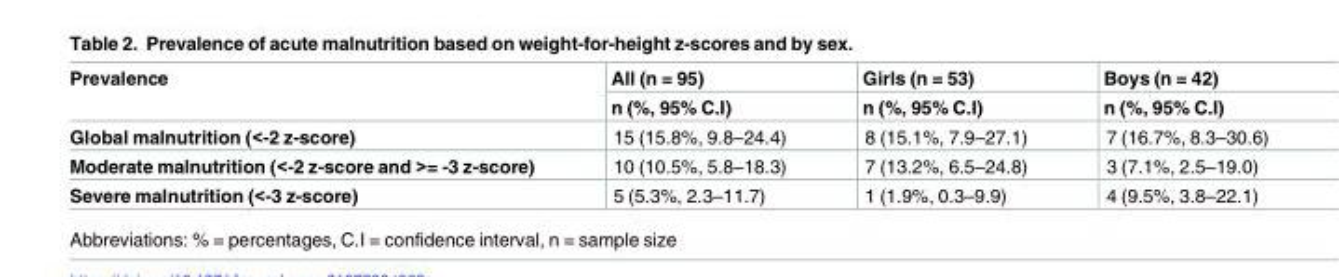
<table><thead><tr><td rowspan="2">Prevalence</td><td rowspan="2">All (n = 95) n (%, 95% C.I)</td><td rowspan="2">Girls (n = 53) n (%, 95% C.I)</td><td rowspan="2">Boys (n = 42) n (%, 95% C.I)</td></tr><tr></tr></thead><tbody><tr><td>Global malnutrition (&lt;-2 z-score)</td><td>15 (15.8%, 9.8–24.4)</td><td>8 (15.1%, 7.9–27.1)</td><td>7 (16.7%, 8.3–30.6)</td></tr><tr><td>Moderate malnutrition (&lt;-2 z-score and &gt;= -3 z-score)</td><td>10 (10.5%, 5.8–18.3)</td><td>7 (13.2%, 6.5–24.8)</td><td>3 (7.1%, 2.5–19.0)</td></tr><tr><td>Severe malnutrition (&lt;-3 z-score)</td><td>5 (5.3%, 2.3–11.7)</td><td>1 (1.9%, 0.3–9.9)</td><td>4 (9.5%, 3.8–22.1)</td></tr></tbody></table>